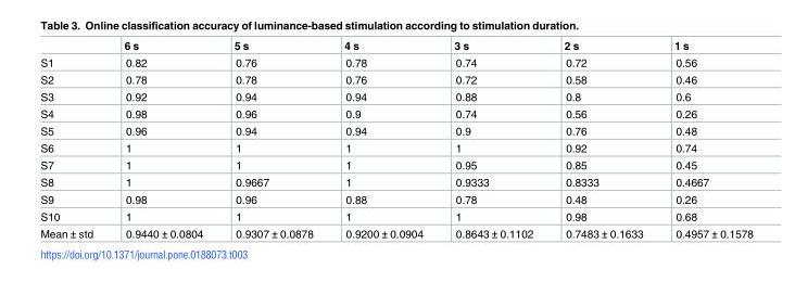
<table><thead><tr><td></td><td>6 s</td><td>5 s</td><td>4 s</td><td>3 s</td><td>2 s</td><td>1 s</td></tr></thead><tbody><tr><td>S1</td><td>0.82</td><td>0.76</td><td>0.78</td><td>0.74</td><td>0.72</td><td>0.56</td></tr><tr><td>S2</td><td>0.78</td><td>0.78</td><td>0.76</td><td>0.72</td><td>0.58</td><td>0.46</td></tr><tr><td>S3</td><td>0.92</td><td>0.94</td><td>0.94</td><td>0.88</td><td>0.8</td><td>0.6</td></tr><tr><td>S4</td><td>0.98</td><td>0.96</td><td>0.9</td><td>0.74</td><td>0.56</td><td>0.26</td></tr><tr><td>S5</td><td>0.96</td><td>0.94</td><td>0.94</td><td>0.9</td><td>0.76</td><td>0.48</td></tr><tr><td>S6</td><td>1</td><td>1</td><td>1</td><td>1</td><td>0.92</td><td>0.74</td></tr><tr><td>S7</td><td>1</td><td>1</td><td>1</td><td>0.95</td><td>0.85</td><td>0.45</td></tr><tr><td>S8</td><td>1</td><td>0.9667</td><td>1</td><td>0.9333</td><td>0.8333</td><td>0.4667</td></tr><tr><td>S9</td><td>0.98</td><td>0.96</td><td>0.88</td><td>0.78</td><td>0.48</td><td>0.26</td></tr><tr><td>S10</td><td>1</td><td>1</td><td>1</td><td>1</td><td>0.98</td><td>0.68</td></tr><tr><td>Mean ± std</td><td>0.9440 ± 0.0804</td><td>0.9307 ± 0.0878</td><td>0.9200 ± 0.0904</td><td>0.8643 ± 0.1102</td><td>0.7483 ± 0.1633</td><td>0.4957 ± 0.1578</td></tr></tbody></table>